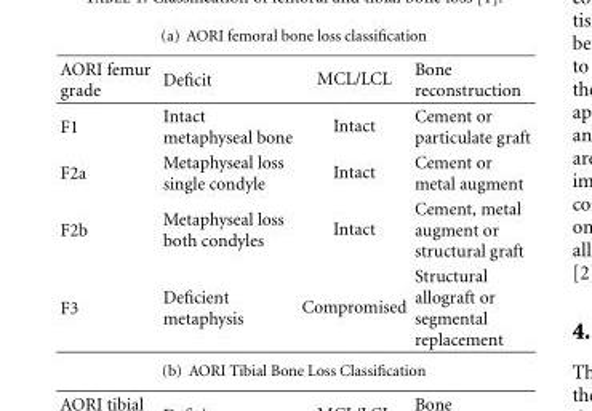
<table><thead><tr><td>AORI femur grade</td><td>Deficit</td><td>MCL/LCL</td><td>Bone reconstruction</td></tr></thead><tbody><tr><td>F1</td><td>Intact metaphyseal bone</td><td>Intact</td><td>Cement or particulate graft</td></tr><tr><td>F2a</td><td>Metaphyseal loss single condyle</td><td>Intact</td><td>Cement or metal augment</td></tr><tr><td>F2b</td><td>Metaphyseal loss both condyles</td><td>Intact</td><td>Cement, metal augment or structural graft</td></tr><tr><td>F3</td><td>Deficient metaphysis</td><td>Compromised</td><td>Structural allograft or segmental replacement</td></tr></tbody></table>